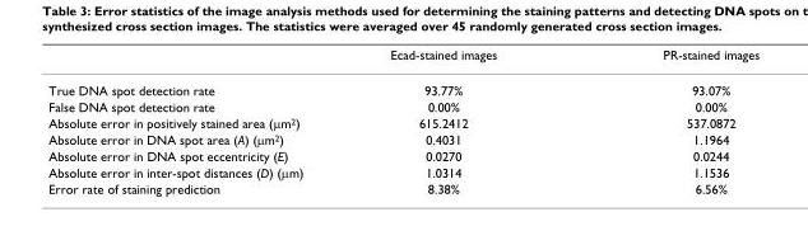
<table><thead><tr><td></td><td>Ecad-stained images</td><td>PR-stained images</td></tr></thead><tbody><tr><td>True DNA spot detection rate</td><td>93.77%</td><td>93.07%</td></tr><tr><td>False DNA spot detection rate</td><td>0.00%</td><td>0.00%</td></tr><tr><td>Absolute error in positively stained area (µm<sup>2</sup>)</td><td>615.2412</td><td>537.0872</td></tr><tr><td>Absolute error in DNA spot area (A) (µm<sup>2</sup>)</td><td>0.4031</td><td>1.1964</td></tr><tr><td>Absolute error in DNA spot eccentricity (E)</td><td>0.0270</td><td>0.0244</td></tr><tr><td>Absolute error in inter-spot distances (D) (µm)</td><td>1.0314</td><td>1.1536</td></tr><tr><td>Error rate of staining prediction</td><td>8.38%</td><td>6.56%</td></tr></tbody></table>